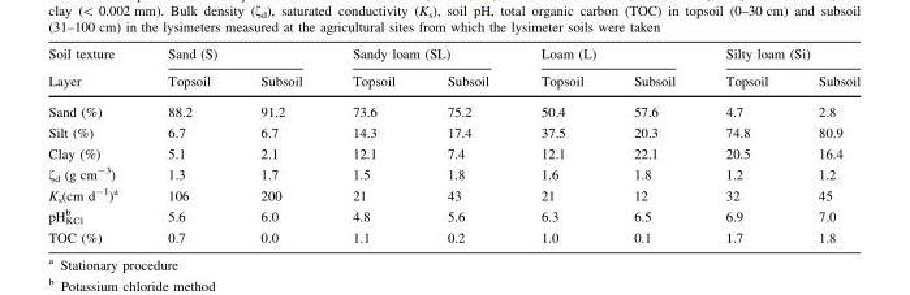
<table><thead><tr><td rowspan="2">Soil texture Layer</td><td colspan="2">Sand (S)</td><td colspan="2">Sandy loam (SL)</td><td colspan="2">Loam (L)</td><td colspan="2">Silty loam (Si)</td></tr><tr><td>Topsoil</td><td>Subsoil</td><td>Topsoil</td><td>Subsoil</td><td>Topsoil</td><td>Subsoil</td><td>Topsoil</td><td>Subsoil</td></tr></thead><tbody><tr><td>Sand (%)</td><td>88.2</td><td>91.2</td><td>73.6</td><td>75.2</td><td>50.4</td><td>57.6</td><td>4.7</td><td>2.8</td></tr><tr><td>Silt (%)</td><td>6.7</td><td>6.7</td><td>14.3</td><td>17.4</td><td>37.5</td><td>20.3</td><td>74.8</td><td>80.9</td></tr><tr><td>Clay (%)</td><td>5.1</td><td>2.1</td><td>12.1</td><td>7.4</td><td>12.1</td><td>22.1</td><td>20.5</td><td>16.4</td></tr><tr><td>ζ<sub>d</sub> (g cm<sup>-3</sup>)</td><td>1.3</td><td>1.7</td><td>1.5</td><td>1.8</td><td>1.6</td><td>1.8</td><td>1.2</td><td>1.2</td></tr><tr><td>K<sub>s</sub>(cm d<sup>-1</sup>)<sup>a</sup></td><td>106</td><td>200</td><td>21</td><td>43</td><td>21</td><td>12</td><td>32</td><td>45</td></tr><tr><td>pH<sub>KCl</sub> <sup>b</sup></td><td>5.6</td><td>6.0</td><td>4.8</td><td>5.6</td><td>6.3</td><td>6.5</td><td>6.9</td><td>7.0</td></tr><tr><td>TOC (%)</td><td>0.7</td><td>0.0</td><td>1.1</td><td>0.2</td><td>1.0</td><td>0.1</td><td>1.7</td><td>1.8</td></tr></tbody></table>